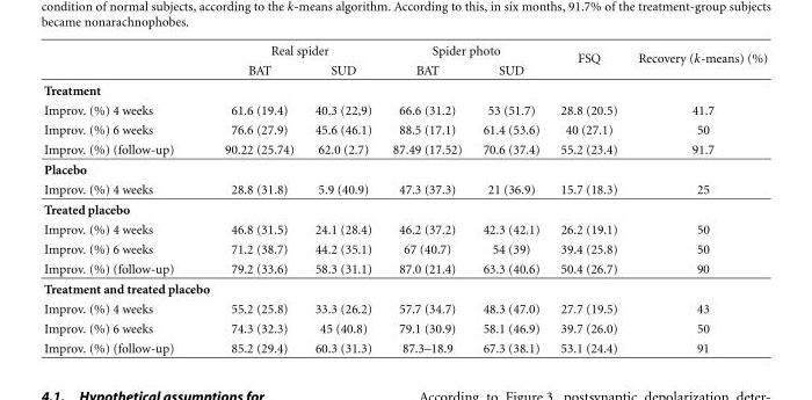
<table><thead><tr><td rowspan="2"></td><td colspan="2">Real spider</td><td colspan="2">Spider photo</td><td rowspan="2">FSQ</td><td rowspan="2">Recovery (k-means) (%)</td></tr><tr><td>BAT</td><td>SUD</td><td>BAT</td><td>SUD</td></tr></thead><tbody><tr><td colspan="7">Treatment</td></tr><tr><td>Improv. (%) 4 weeks</td><td>61.6 (19.4)</td><td>40.3 (22,9)</td><td>66.6 (31.2)</td><td>53 (51.7)</td><td>28.8 (20.5)</td><td>41.7</td></tr><tr><td>Improv. (%) 6 weeks</td><td>76.6 (27.9)</td><td>45.6 (46.1)</td><td>88.5 (17.1)</td><td>61.4 (53.6)</td><td>40 (27.1)</td><td>50</td></tr><tr><td>Improv. (%) (follow-up)</td><td>90.22 (25.74)</td><td>62.0 (2.7)</td><td>87.49 (17.52)</td><td>70.6 (37.4)</td><td>55.2 (23.4)</td><td>91.7</td></tr><tr><td colspan="7">Placebo</td></tr><tr><td>Improv. (%) 4 weeks</td><td>28.8 (31.8)</td><td>5.9 (40.9)</td><td>47.3 (37.3)</td><td>21 (36.9)</td><td>15.7 (18.3)</td><td>25</td></tr><tr><td colspan="7">Treated placebo</td></tr><tr><td>Improv. (%) 4 weeks</td><td>46.8 (31.5)</td><td>24.1 (28.4)</td><td>46.2 (37.2)</td><td>42.3 (42.1)</td><td>26.2 (19.1)</td><td>50</td></tr><tr><td>Improv. (%) 6 weeks</td><td>71.2 (38.7)</td><td>44.2 (35.1)</td><td>67 (40.7)</td><td>54 (39)</td><td>39.4 (25.8)</td><td>50</td></tr><tr><td>Improv. (%) (follow-up)</td><td>79.2 (33.6)</td><td>58.3 (31.1)</td><td>87.0 (21.4)</td><td>63.3 (40.6)</td><td>50.4 (26.7)</td><td>90</td></tr><tr><td colspan="7">Treatment and treated placebo</td></tr><tr><td>Improv. (%) 4 weeks</td><td>55.2 (25.8)</td><td>33.3 (26.2)</td><td>57.7 (34.7)</td><td>48.3 (47.0)</td><td>27.7 (19.5)</td><td>43</td></tr><tr><td>Improv. (%) 6 weeks</td><td>74.3 (32.3)</td><td>45 (40.8)</td><td>79.1 (30.9)</td><td>58.1 (46.9)</td><td>39.7 (26.0)</td><td>50</td></tr><tr><td>Improv. (%) (follow-up)</td><td>85.2 (29.4)</td><td>60.3 (31.3)</td><td>87.3–18.9</td><td>67.3 (38.1)</td><td>53.1 (24.4)</td><td>91</td></tr></tbody></table>